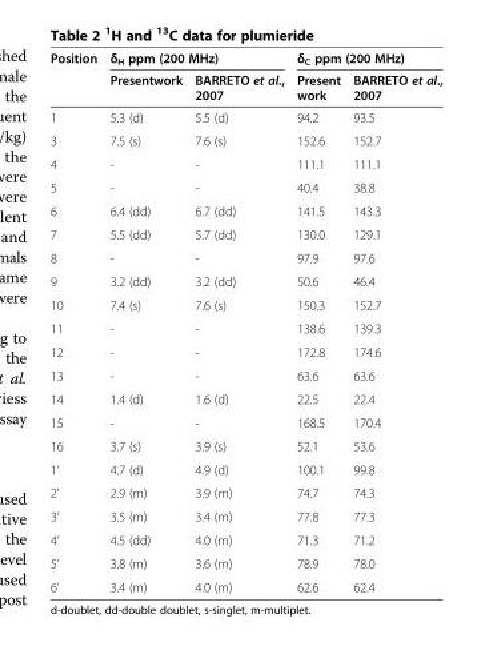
<table><thead><tr><td rowspan="2">Position</td><td colspan="2">δ<sub>H</sub> ppm (200 MHz)</td><td colspan="2">δ<sub>C</sub> ppm (200 MHz)</td></tr><tr><td>Presentwork</td><td>BARRETO et al., 2007</td><td>Present work</td><td>BARRETO et al., 2007</td></tr></thead><tbody><tr><td>1</td><td>5.3 (d)</td><td>5.5 (d)</td><td>94.2</td><td>93.5</td></tr><tr><td>3</td><td>7.5 (s)</td><td>7.6 (s)</td><td>152.6</td><td>152.7</td></tr><tr><td>4</td><td>-</td><td>-</td><td>111.1</td><td>111.1</td></tr><tr><td>5</td><td>-</td><td>-</td><td>40.4</td><td>38.8</td></tr><tr><td>6</td><td>6.4 (dd)</td><td>6.7 (dd)</td><td>141.5</td><td>143.3</td></tr><tr><td>7</td><td>5.5 (dd)</td><td>5.7 (dd)</td><td>130.0</td><td>129.1</td></tr><tr><td>8</td><td>-</td><td>-</td><td>97.9</td><td>97.6</td></tr><tr><td>9</td><td>3.2 (dd)</td><td>3.2 (dd)</td><td>50.6</td><td>46.4</td></tr><tr><td>10</td><td>7.4 (s)</td><td>7.6 (s)</td><td>150.3</td><td>152.7</td></tr><tr><td>11</td><td>-</td><td>-</td><td>138.6</td><td>139.3</td></tr><tr><td>12</td><td>-</td><td>-</td><td>172.8</td><td>174.6</td></tr><tr><td>13</td><td>-</td><td>-</td><td>63.6</td><td>63.6</td></tr><tr><td>14</td><td>1.4 (d)</td><td>1.6 (d)</td><td>22.5</td><td>22.4</td></tr><tr><td>15</td><td>-</td><td>-</td><td>168.5</td><td>170.4</td></tr><tr><td>16</td><td>3.7 (s)</td><td>3.9 (s)</td><td>52.1</td><td>53.6</td></tr><tr><td>1’</td><td>4.7 (d)</td><td>4.9 (d)</td><td>100.1</td><td>99.8</td></tr><tr><td>2’</td><td>2.9 (m)</td><td>3.9 (m)</td><td>74.7</td><td>74.3</td></tr><tr><td>3’</td><td>3.5 (m)</td><td>3.4 (m)</td><td>77.8</td><td>77.3</td></tr><tr><td>4’</td><td>4.5 (dd)</td><td>4.0 (m)</td><td>71.3</td><td>71.2</td></tr><tr><td>5’</td><td>3.8 (m)</td><td>3.6 (m)</td><td>78.9</td><td>78.0</td></tr><tr><td>6’</td><td>3.4 (m)</td><td>4.0 (m)</td><td>62.6</td><td>62.4</td></tr></tbody></table>